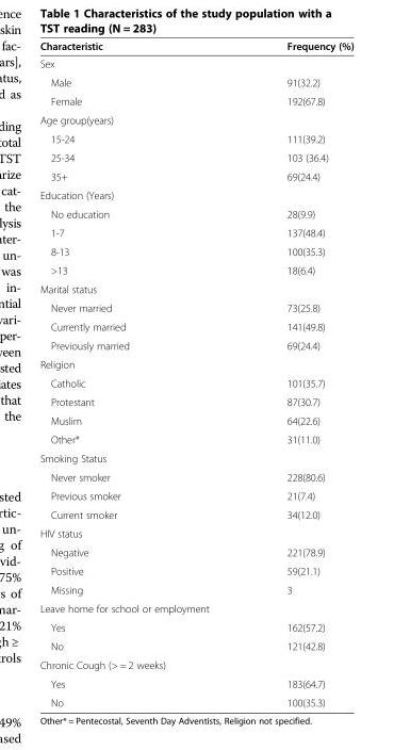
<table><thead><tr><td>Characteristic</td><td>Frequency (%)</td></tr></thead><tbody><tr><td colspan="2">Sex</td></tr><tr><td>Male</td><td>91(32.2)</td></tr><tr><td>Female</td><td>192(67.8)</td></tr><tr><td colspan="2">Age group(years)</td></tr><tr><td>15-24</td><td>111(39.2)</td></tr><tr><td>25-34</td><td>103 (36.4)</td></tr><tr><td>35+</td><td>69(24.4)</td></tr><tr><td colspan="2">Education (Years)</td></tr><tr><td>No education</td><td>28(9.9)</td></tr><tr><td>1-7</td><td>137(48.4)</td></tr><tr><td>8-13</td><td>100(35.3)</td></tr><tr><td>&gt;13</td><td>18(6.4)</td></tr><tr><td colspan="2">Marital status</td></tr><tr><td>Never married</td><td>73(25.8)</td></tr><tr><td>Currently married</td><td>141(49.8)</td></tr><tr><td>Previously married</td><td>69(24.4)</td></tr><tr><td colspan="2">Religion</td></tr><tr><td>Catholic</td><td>101(35.7)</td></tr><tr><td>Protestant</td><td>87(30.7)</td></tr><tr><td>Muslim</td><td>64(22.6)</td></tr><tr><td>Other*</td><td>31(11.0)</td></tr><tr><td colspan="2">Smoking Status</td></tr><tr><td>Never smoker</td><td>228(80.6)</td></tr><tr><td>Previous smoker</td><td>21(7.4)</td></tr><tr><td>Current smoker</td><td>34(12.0)</td></tr><tr><td colspan="2">HIV status</td></tr><tr><td>Negative</td><td>221(78.9)</td></tr><tr><td>Positive</td><td>59(21.1)</td></tr><tr><td>Missing</td><td>3</td></tr><tr><td colspan="2">Leave home for school or employment</td></tr><tr><td>Yes</td><td>162(57.2)</td></tr><tr><td>No</td><td>121(42.8)</td></tr><tr><td colspan="2">Chronic Cough (&gt; = 2 weeks)</td></tr><tr><td>Yes</td><td>183(64.7)</td></tr><tr><td>No</td><td>100(35.3)</td></tr></tbody></table>